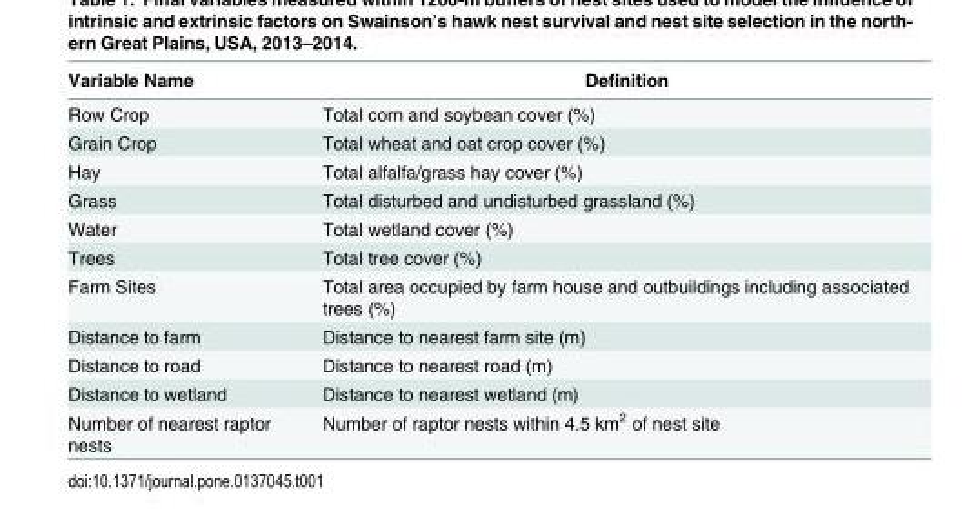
<table><thead><tr><td>Variable Name</td><td>Definition</td></tr></thead><tbody><tr><td>Row Crop</td><td>Total corn and soybean cover (%)</td></tr><tr><td>Grain Crop</td><td>Total wheat and oat crop cover (%)</td></tr><tr><td>Hay</td><td>Total alfalfa/grass hay cover (%)</td></tr><tr><td>Grass</td><td>Total disturbed and undisturbed grassland (%)</td></tr><tr><td>Water</td><td>Total wetland cover (%)</td></tr><tr><td>Trees</td><td>Total tree cover (%)</td></tr><tr><td>Farm Sites</td><td>Total area occupied by farm house and outbuildings including associated trees (%)</td></tr><tr><td>Distance to farm</td><td>Distance to nearest farm site (m)</td></tr><tr><td>Distance to road</td><td>Distance to nearest road (m)</td></tr><tr><td>Distance to wetland</td><td>Distance to nearest wetland (m)</td></tr><tr><td>Number of nearest raptor nests</td><td>Number of raptor nests within 4.5 km<sup>2</sup> of nest site</td></tr></tbody></table>